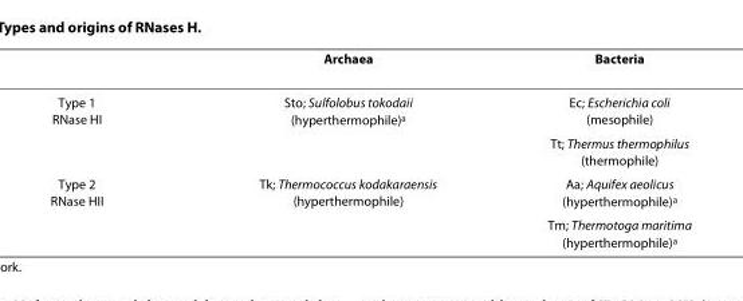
<table><thead><tr><td></td><td>Archaea</td><td>Bacteria</td></tr></thead><tbody><tr><td rowspan="2">Type 1 RNase HI</td><td>Sto; Sulfolobus tokodaii (hyperthermophile)<sup>a</sup></td><td>Ec; Escherichia coli (mesophile)</td></tr><tr><td></td><td>Tt; Thermus thermophilus (thermophile)</td></tr><tr><td rowspan="2">Type 2 RNase HII</td><td>Tk; Thermococcus kodakaraensis (hyperthermophile)</td><td>Aa; Aquifex aeolicus (hyperthermophile)<sup>a</sup></td></tr><tr><td></td><td>Tm; Thermotoga maritima (hyperthermophile)<sup>a</sup></td></tr></tbody></table>